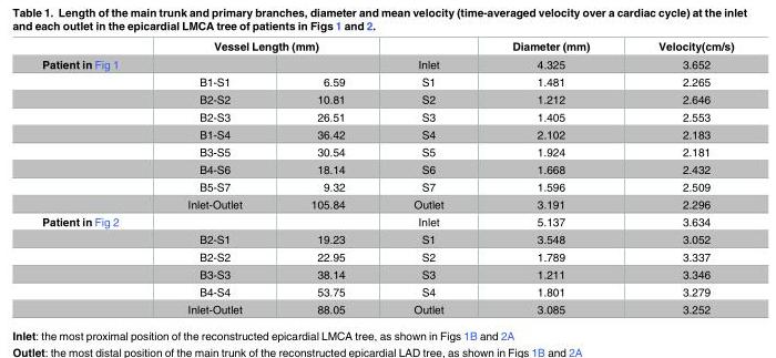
<table><thead><tr><td rowspan="2">Patient in Fig 1</td><td colspan="2">Vessel Length (mm)</td><td rowspan="2">Inlet</td><td rowspan="2">Diameter (mm) 4.325</td><td rowspan="2">Velocity(cm/s) 3.652</td></tr><tr><td></td><td></td></tr></thead><tbody><tr><td></td><td>B1-S1</td><td>6.59</td><td>S1</td><td>1.481</td><td>2.265</td></tr><tr><td></td><td>B2-S2</td><td>10.81</td><td>S2</td><td>1.212</td><td>2.646</td></tr><tr><td></td><td>B2-S3</td><td>26.51</td><td>S3</td><td>1.405</td><td>2.553</td></tr><tr><td></td><td>B1-S4</td><td>36.42</td><td>S4</td><td>2.102</td><td>2.183</td></tr><tr><td></td><td>B3-S5</td><td>30.54</td><td>S5</td><td>1.924</td><td>2.181</td></tr><tr><td></td><td>B4-S6</td><td>18.14</td><td>S6</td><td>1.668</td><td>2.432</td></tr><tr><td></td><td>B5-S7</td><td>9.32</td><td>S7</td><td>1.596</td><td>2.509</td></tr><tr><td></td><td>Inlet-Outlet</td><td>105.84</td><td>Outlet</td><td>3.191</td><td>2.296</td></tr><tr><td rowspan="6">Patient in Fig 2</td><td></td><td></td><td>Inlet</td><td>5.137</td><td>3.634</td></tr><tr><td>B2-S1</td><td>19.23</td><td>S1</td><td>3.548</td><td>3.052</td></tr><tr><td>B2-S2</td><td>22.95</td><td>S2</td><td>1.789</td><td>3.337</td></tr><tr><td>B3-S3</td><td>38.14</td><td>S3</td><td>1.211</td><td>3.346</td></tr><tr><td>B4-S4</td><td>53.75</td><td>S4</td><td>1.801</td><td>3.279</td></tr><tr><td>Inlet-Outlet</td><td>88.05</td><td>Outlet</td><td>3.085</td><td>3.252</td></tr></tbody></table>